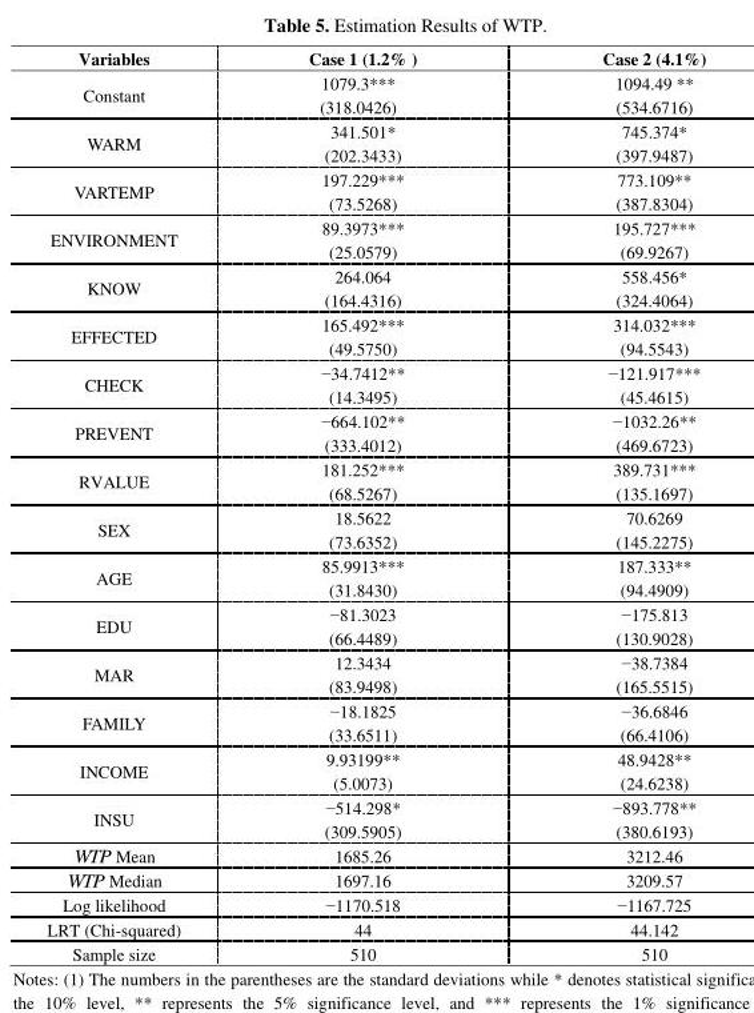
<table><thead><tr><td>Variables</td><td>Case 1 (1.2% )</td><td>Case 2 (4.1%)</td></tr></thead><tbody><tr><td>Constant</td><td>1079.3*** (318.0426)</td><td>1094.49 ** (534.6716)</td></tr><tr><td>WARM</td><td>341.501* (202.3433)</td><td>745.374* (397.9487)</td></tr><tr><td>VARTEMP</td><td>197.229*** (73.5268)</td><td>773.109** (387.8304)</td></tr><tr><td>ENVIRONMENT</td><td>89.3973*** (25.0579)</td><td>195.727*** (69.9267)</td></tr><tr><td>KNOW</td><td>264.064 (164.4316)</td><td>558.456* (324.4064)</td></tr><tr><td>EFFECTED</td><td>165.492*** (49.5750)</td><td>314.032*** (94.5543)</td></tr><tr><td>CHECK</td><td>−34.7412** (14.3495)</td><td>−121.917*** (45.4615)</td></tr><tr><td>PREVENT</td><td>−664.102** (333.4012)</td><td>−1032.26** (469.6723)</td></tr><tr><td>RVALUE</td><td>181.252*** (68.5267)</td><td>389.731*** (135.1697)</td></tr><tr><td>SEX</td><td>18.5622 (73.6352)</td><td>70.6269 (145.2275)</td></tr><tr><td>AGE</td><td>85.9913*** (31.8430)</td><td>187.333** (94.4909)</td></tr><tr><td>EDU</td><td>−81.3023 (66.4489)</td><td>−175.813 (130.9028)</td></tr><tr><td>MAR</td><td>12.3434 (83.9498)</td><td>−38.7384 (165.5515)</td></tr><tr><td>FAMILY</td><td>−18.1825 (33.6511)</td><td>−36.6846 (66.4106)</td></tr><tr><td>INCOME</td><td>9.93199** (5.0073)</td><td>48.9428** (24.6238)</td></tr><tr><td>INSU</td><td>−514.298* (309.5905)</td><td>−893.778** (380.6193)</td></tr><tr><td>WTP Mean</td><td>1685.26</td><td>3212.46</td></tr><tr><td>WTP Median</td><td>1697.16</td><td>3209.57</td></tr><tr><td>Log likelihood</td><td>−1170.518</td><td>−1167.725</td></tr><tr><td>LRT (Chi-squared)</td><td>44</td><td>44.142</td></tr><tr><td>Sample size</td><td>510</td><td>510</td></tr></tbody></table>